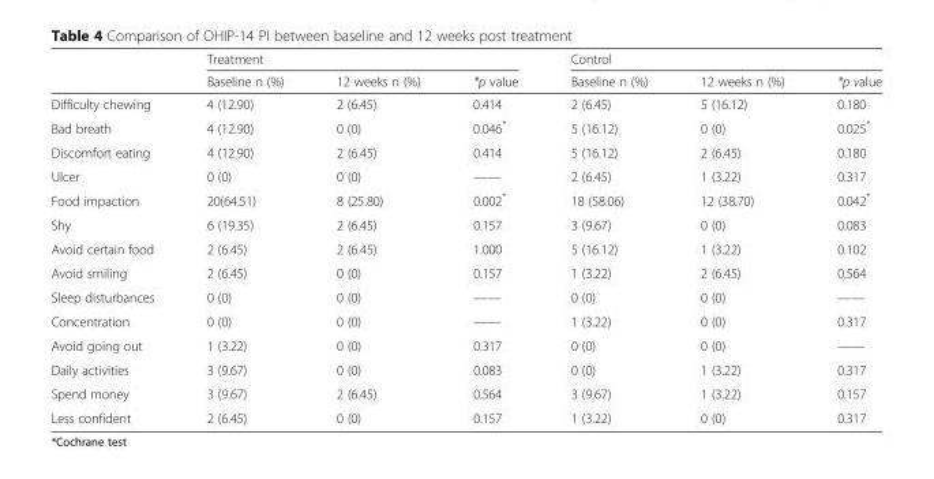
<table><thead><tr><td rowspan="2"></td><td colspan="3">Treatment</td><td colspan="3">Control</td></tr><tr><td>Baseline n (%)</td><td>12 weeks n (%)</td><td>*p value</td><td>Baseline n (%)</td><td>12 weeks n (%)</td><td>*p value</td></tr></thead><tbody><tr><td>Difficulty chewing</td><td>4 (12.90)</td><td>2 (6.45)</td><td>0.414</td><td>2 (6.45)</td><td>5 (16.12)</td><td>0.180</td></tr><tr><td>Bad breath</td><td>4 (12.90)</td><td>0 (0)</td><td>0.046*</td><td>5 (16.12)</td><td>0 (0)</td><td>0.025*</td></tr><tr><td>Discomfort eating</td><td>4 (12.90)</td><td>2 (6.45)</td><td>0.414</td><td>5 (16.12)</td><td>2 (6.45)</td><td>0.180</td></tr><tr><td>Ulcer</td><td>0 (0)</td><td>0 (0)</td><td>——</td><td>2 (6.45)</td><td>1 (3.22)</td><td>0.317</td></tr><tr><td>Food impaction</td><td>20(64.51)</td><td>8 (25.80)</td><td>0.002*</td><td>18 (58.06)</td><td>12 (38.70)</td><td>0.042*</td></tr><tr><td>Shy</td><td>6 (19.35)</td><td>2 (6.45)</td><td>0.157</td><td>3 (9.67)</td><td>0 (0)</td><td>0.083</td></tr><tr><td>Avoid certain food</td><td>2 (6.45)</td><td>2 (6.45)</td><td>1.000</td><td>5 (16.12)</td><td>1 (3.22)</td><td>0.102</td></tr><tr><td>Avoid smiling</td><td>2 (6.45)</td><td>0 (0)</td><td>0.157</td><td>1 (3.22)</td><td>2 (6.45)</td><td>0.564</td></tr><tr><td>Sleep disturbances</td><td>0 (0)</td><td>0 (0)</td><td>——</td><td>0 (0)</td><td>0 (0)</td><td>——</td></tr><tr><td>Concentration</td><td>0 (0)</td><td>0 (0)</td><td>——</td><td>1 (3.22)</td><td>0 (0)</td><td>0.317</td></tr><tr><td>Avoid going out</td><td>1 (3.22)</td><td>0 (0)</td><td>0.317</td><td>0 (0)</td><td>0 (0)</td><td>——</td></tr><tr><td>Daily activities</td><td>3 (9.67)</td><td>0 (0)</td><td>0.083</td><td>0 (0)</td><td>1 (3.22)</td><td>0.317</td></tr><tr><td>Spend money</td><td>3 (9.67)</td><td>2 (6.45)</td><td>0.564</td><td>3 (9.67)</td><td>1 (3.22)</td><td>0.157</td></tr><tr><td>Less confident</td><td>2 (6.45)</td><td>0 (0)</td><td>0.157</td><td>1 (3.22)</td><td>0 (0)</td><td>0.317</td></tr></tbody></table>